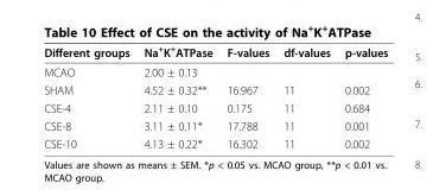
<table><thead><tr><td>Different groups</td><td>Na<sup>+</sup>K<sup>+</sup>ATPase</td><td>F-values</td><td>df-values</td><td>p-values</td></tr></thead><tbody><tr><td>MCAO</td><td>2.00 ± 0.13</td><td></td><td></td><td></td></tr><tr><td>SHAM</td><td>4.52 ± 0.32**</td><td>16.967</td><td>11</td><td>0.002</td></tr><tr><td>CSE-4</td><td>2.11 ± 0.10</td><td>0.175</td><td>11</td><td>0.684</td></tr><tr><td>CSE-8</td><td>3.11 ± 0.11*</td><td>17.788</td><td>11</td><td>0.001</td></tr><tr><td>CSE-10</td><td>4.13 ± 0.22*</td><td>16.302</td><td>11</td><td>0.002</td></tr></tbody></table>